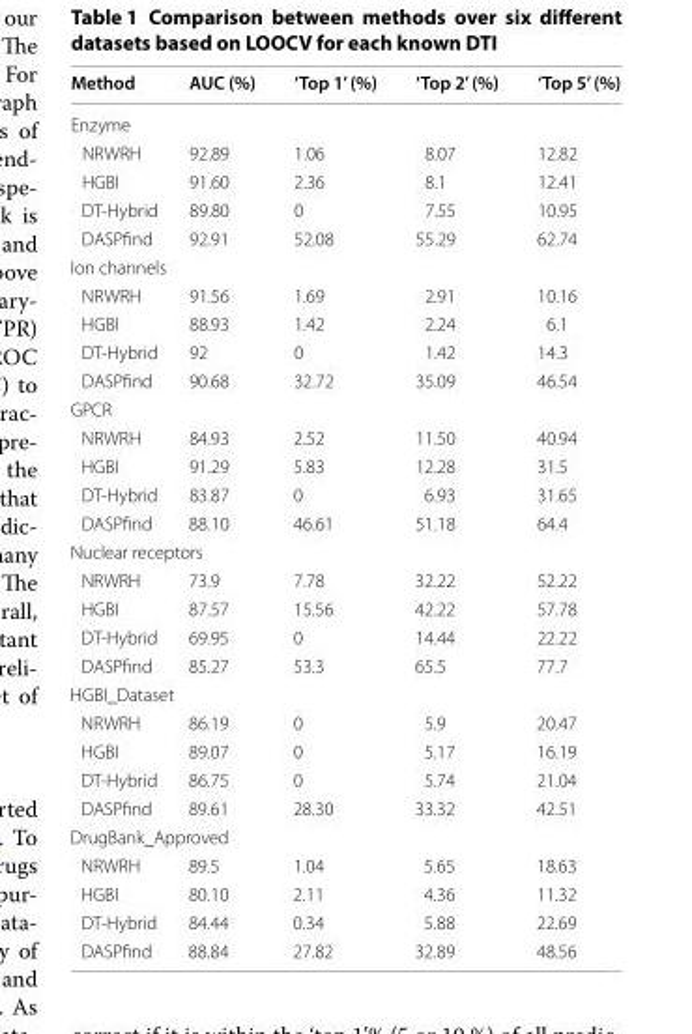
<table><thead><tr><td>Method</td><td>AUC (%)</td><td>‘Top 1’ (%)</td><td>‘Top 2’ (%)</td><td>‘Top 5’ (%)</td></tr></thead><tbody><tr><td colspan="5">Enzyme</td></tr><tr><td>NRWRH</td><td>92.89</td><td>1.06</td><td>8.07</td><td>12.82</td></tr><tr><td>HGBI</td><td>91.60</td><td>2.36</td><td>8.1</td><td>12.41</td></tr><tr><td>DT‑Hybrid</td><td>89.80</td><td>0</td><td>7.55</td><td>10.95</td></tr><tr><td>DASPfind</td><td>92.91</td><td>52.08</td><td>55.29</td><td>62.74</td></tr><tr><td colspan="5">Ion channels</td></tr><tr><td>NRWRH</td><td>91.56</td><td>1.69</td><td>2.91</td><td>10.16</td></tr><tr><td>HGBI</td><td>88.93</td><td>1.42</td><td>2.24</td><td>6.1</td></tr><tr><td>DT‑Hybrid</td><td>92</td><td>0</td><td>1.42</td><td>14.3</td></tr><tr><td>DASPfind</td><td>90.68</td><td>32.72</td><td>35.09</td><td>46.54</td></tr><tr><td colspan="5">GPCR</td></tr><tr><td>NRWRH</td><td>84.93</td><td>2.52</td><td>11.50</td><td>40.94</td></tr><tr><td>HGBI</td><td>91.29</td><td>5.83</td><td>12.28</td><td>31.5</td></tr><tr><td>DT‑Hybrid</td><td>83.87</td><td>0</td><td>6.93</td><td>31.65</td></tr><tr><td>DASPfind</td><td>88.10</td><td>46.61</td><td>51.18</td><td>64.4</td></tr><tr><td colspan="5">Nuclear receptors</td></tr><tr><td>NRWRH</td><td>73.9</td><td>7.78</td><td>32.22</td><td>52.22</td></tr><tr><td>HGBI</td><td>87.57</td><td>15.56</td><td>42.22</td><td>57.78</td></tr><tr><td>DT‑Hybrid</td><td>69.95</td><td>0</td><td>14.44</td><td>22.22</td></tr><tr><td>DASPfind</td><td>85.27</td><td>53.3</td><td>65.5</td><td>77.7</td></tr><tr><td colspan="5">HGBI_Dataset</td></tr><tr><td>NRWRH</td><td>86.19</td><td>0</td><td>5.9</td><td>20.47</td></tr><tr><td>HGBI</td><td>89.07</td><td>0</td><td>5.17</td><td>16.19</td></tr><tr><td>DT‑Hybrid</td><td>86.75</td><td>0</td><td>5.74</td><td>21.04</td></tr><tr><td>DASPfind</td><td>89.61</td><td>28.30</td><td>33.32</td><td>42.51</td></tr><tr><td colspan="5">DrugBank_Approved</td></tr><tr><td>NRWRH</td><td>89.5</td><td>1.04</td><td>5.65</td><td>18.63</td></tr><tr><td>HGBI</td><td>80.10</td><td>2.11</td><td>4.36</td><td>11.32</td></tr><tr><td>DT‑Hybrid</td><td>84.44</td><td>0.34</td><td>5.88</td><td>22.69</td></tr><tr><td>DASPfind</td><td>88.84</td><td>27.82</td><td>32.89</td><td>48.56</td></tr></tbody></table>